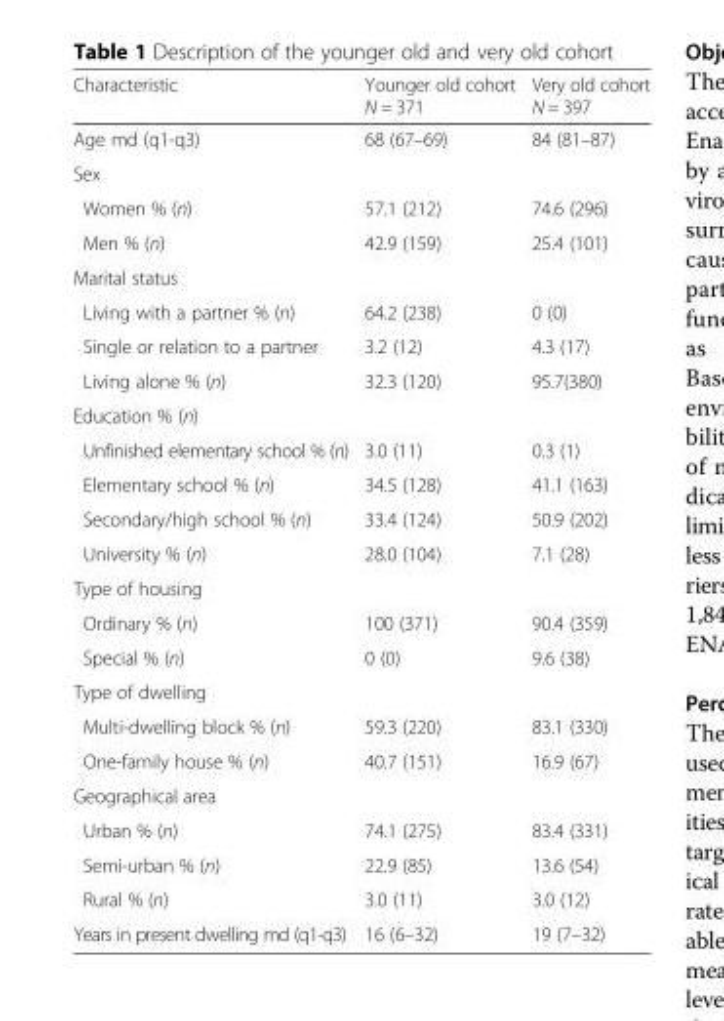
<table><thead><tr><td>Characteristic</td><td>Younger old cohort N = 371</td><td>Very old cohort N = 397</td></tr></thead><tbody><tr><td>Age md (q1-q3)</td><td>68 (67–69)</td><td>84 (81–87)</td></tr><tr><td colspan="3">Sex</td></tr><tr><td>Women % (n)</td><td>57.1 (212)</td><td>74.6 (296)</td></tr><tr><td>Men % (n)</td><td>42.9 (159)</td><td>25.4 (101)</td></tr><tr><td colspan="3">Marital status</td></tr><tr><td>Living with a partner % (n)</td><td>64.2 (238)</td><td>0 (0)</td></tr><tr><td>Single or relation to a partner</td><td>3.2 (12)</td><td>4.3 (17)</td></tr><tr><td>Living alone % (n)</td><td>32.3 (120)</td><td>95.7(380)</td></tr><tr><td colspan="3">Education % (n)</td></tr><tr><td>Unfinished elementary school % (n)</td><td>3.0 (11)</td><td>0.3 (1)</td></tr><tr><td>Elementary school % (n)</td><td>34.5 (128)</td><td>41.1 (163)</td></tr><tr><td>Secondary/high school % (n)</td><td>33.4 (124)</td><td>50.9 (202)</td></tr><tr><td>University % (n)</td><td>28.0 (104)</td><td>7.1 (28)</td></tr><tr><td colspan="3">Type of housing</td></tr><tr><td>Ordinary % (n)</td><td>100 (371)</td><td>90.4 (359)</td></tr><tr><td>Special % (n)</td><td>0 (0)</td><td>9.6 (38)</td></tr><tr><td colspan="3">Type of dwelling</td></tr><tr><td>Multi-dwelling block % (n)</td><td>59.3 (220)</td><td>83.1 (330)</td></tr><tr><td>One-family house % (n)</td><td>40.7 (151)</td><td>16.9 (67)</td></tr><tr><td colspan="3">Geographical area</td></tr><tr><td>Urban % (n)</td><td>74.1 (275)</td><td>83.4 (331)</td></tr><tr><td>Semi-urban % (n)</td><td>22.9 (85)</td><td>13.6 (54)</td></tr><tr><td>Rural % (n)</td><td>3.0 (11)</td><td>3.0 (12)</td></tr><tr><td>Years in present dwelling md (q1-q3)</td><td>16 (6–32)</td><td>19 (7–32)</td></tr></tbody></table>